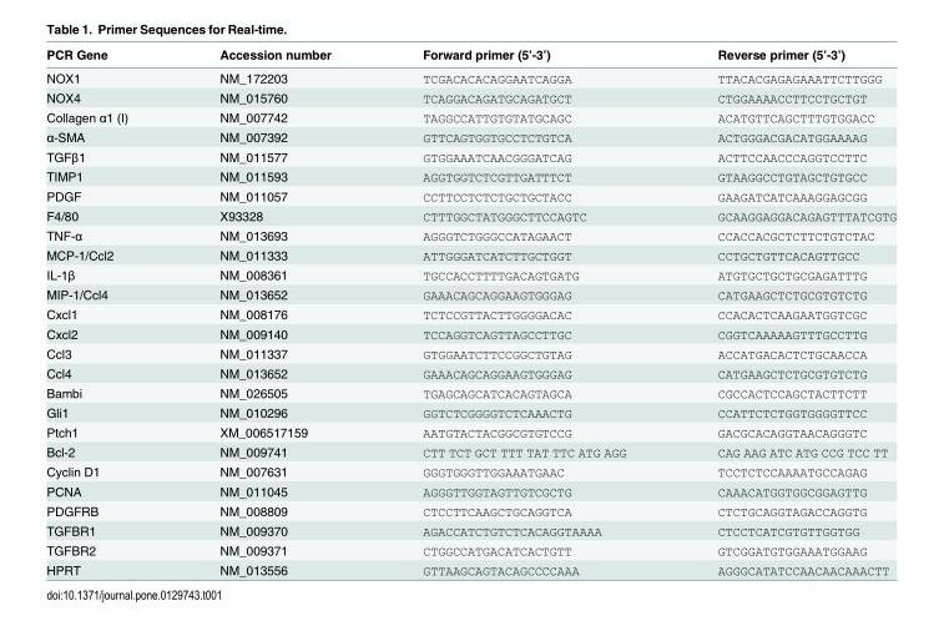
<table><thead><tr><td>PCR Gene</td><td>Accession number</td><td>Forward primer (5’-3’)</td><td>Reverse primer (5’-3’)</td></tr></thead><tbody><tr><td>NOX1</td><td>NM_172203</td><td>TCGACACACAGGAATCAGGA</td><td>TTACACGAGAGAAATTCTTGGG</td></tr><tr><td>NOX4</td><td>NM_015760</td><td>TCAGGACAGATGCAGATGCT</td><td>CTGGAAAACCTTCCTGCTGT</td></tr><tr><td>Collagen α1 (I)</td><td>NM_007742</td><td>TAGGCCATTGTGTATGCAGC</td><td>ACATGTTCAGCTTTGTGGACC</td></tr><tr><td>α-SMA</td><td>NM_007392</td><td>GTTCAGTGGTGCCTCTGTCA</td><td>ACTGGGACGACATGGAAAAG</td></tr><tr><td>TGFβ1</td><td>NM_011577</td><td>GTGGAAATCAACGGGATCAG</td><td>ACTTCCAACCCAGGTCCTTC</td></tr><tr><td>TIMP1</td><td>NM_011593</td><td>AGGTGGTCTCGTTGATTTCT</td><td>GTAAGGCCTGTAGCTGTGCC</td></tr><tr><td>PDGF</td><td>NM_011057</td><td>CCTTCCTCTCTGCTGCTACC</td><td>GAAGATCATCAAAGGAGCGG</td></tr><tr><td>F4/80</td><td>X93328</td><td>CTTTGGCTATGGGCTTCCAGTC</td><td>GCAAGGAGGACAGAGTTTATCGTG</td></tr><tr><td>TNF-α</td><td>NM_013693</td><td>AGGGTCTGGGCCATAGAACT</td><td>CCACCACGCTCTTCTGTCTAC</td></tr><tr><td>MCP-1/Ccl2</td><td>NM_011333</td><td>ATTGGGATCATCTTGCTGGT</td><td>CCTGCTGTTCACAGTTGCC</td></tr><tr><td>IL-1β</td><td>NM_008361</td><td>TGCCACCTTTTGACAGTGATG</td><td>ATGTGCTGCTGCGAGATTTG</td></tr><tr><td>MIP-1/Ccl4</td><td>NM_013652</td><td>GAAACAGCAGGAAGTGGGAG</td><td>CATGAAGCTCTGCGTGTCTG</td></tr><tr><td>Cxcl1</td><td>NM_008176</td><td>TCTCCGTTACTTGGGGACAC</td><td>CCACACTCAAGAATGGTCGC</td></tr><tr><td>Cxcl2</td><td>NM_009140</td><td>TCCAGGTCAGTTAGCCTTGC</td><td>CGGTCAAAAAGTTTGCCTTG</td></tr><tr><td>Ccl3</td><td>NM_011337</td><td>GTGGAATCTTCCGGCTGTAG</td><td>ACCATGACACTCTGCAACCA</td></tr><tr><td>Ccl4</td><td>NM_013652</td><td>GAAACAGCAGGAAGTGGGAG</td><td>CATGAAGCTCTGCGTGTCTG</td></tr><tr><td>Bambi</td><td>NM_026505</td><td>TGAGCAGCATCACAGTAGCA</td><td>CGCCACTCCAGCTACTTCTT</td></tr><tr><td>Gli1</td><td>NM_010296</td><td>GGTCTCGGGGTCTCAAACTG</td><td>CCATTCTCTGGTGGGGTTCC</td></tr><tr><td>Ptch1</td><td>XM_006517159</td><td>AATGTACTACGGCGTGTCCG</td><td>GACGCACAGGTAACAGGGTC</td></tr><tr><td>Bcl-2</td><td>NM_009741</td><td>CTT TCT GCT TTT TAT TTC ATG AGG</td><td>CAG AAG ATC ATG CCG TCC TT</td></tr><tr><td>Cyclin D1</td><td>NM_007631</td><td>GGGTGGGTTGGAAATGAAC</td><td>TCCTCTCCAAAATGCCAGAG</td></tr><tr><td>PCNA</td><td>NM_011045</td><td>AGGGTTGGTAGTTGTCGCTG</td><td>CAAACATGGTGGCGGAGTTG</td></tr><tr><td>PDGFRB</td><td>NM_008809</td><td>CTCCTTCAAGCTGCAGGTCA</td><td>CTCTGCAGGTAGACCAGGTG</td></tr><tr><td>TGFBR1</td><td>NM_009370</td><td>AGACCATCTGTCTCACAGGTAAAA</td><td>CTCCTCATCGTGTTGGTGG</td></tr><tr><td>TGFBR2</td><td>NM_009371</td><td>CTGGCCATGACATCACTGTT</td><td>GTCGGATGTGGAAATGGAAG</td></tr><tr><td>HPRT</td><td>NM_013556</td><td>GTTAAGCAGTACAGCCCCAAA</td><td>AGGGCATATCCAACAACAAACTT</td></tr></tbody></table>